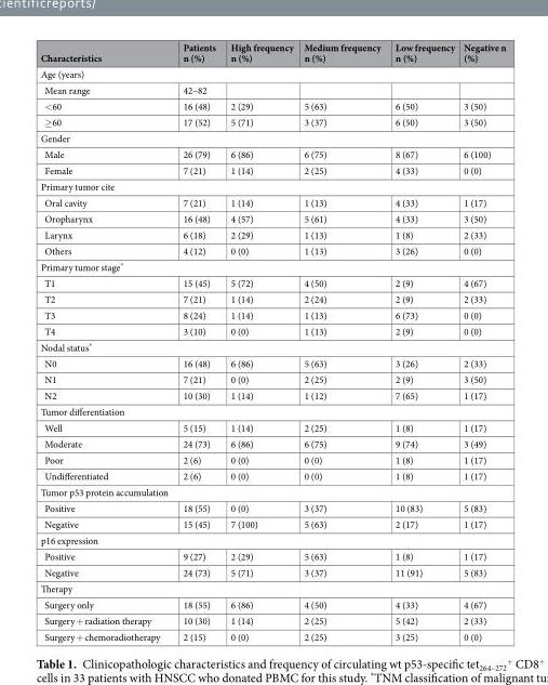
<table><thead><tr><td>Characteristics</td><td>Patients n (%)</td><td>High frequency n (%)</td><td>Medium frequency n (%)</td><td>Low frequency n (%)</td><td>Negative n (%)</td></tr></thead><tbody><tr><td colspan="6">Age (years)</td></tr><tr><td>Mean range</td><td>42–82</td><td></td><td></td><td></td><td></td></tr><tr><td>&lt;60</td><td>16 (48)</td><td>2 (29)</td><td>5 (63)</td><td>6 (50)</td><td>3 (50)</td></tr><tr><td>≥60</td><td>17 (52)</td><td>5 (71)</td><td>3 (37)</td><td>6 (50)</td><td>3 (50)</td></tr><tr><td colspan="6">Gender</td></tr><tr><td>Male</td><td>26 (79)</td><td>6 (86)</td><td>6 (75)</td><td>8 (67)</td><td>6 (100)</td></tr><tr><td>Female</td><td>7 (21)</td><td>1 (14)</td><td>2 (25)</td><td>4 (33)</td><td>0 (0)</td></tr><tr><td colspan="6">Primary tumor cite</td></tr><tr><td>Oral cavity</td><td>7 (21)</td><td>1 (14)</td><td>1 (13)</td><td>4 (33)</td><td>1 (17)</td></tr><tr><td>Oropharynx</td><td>16 (48)</td><td>4 (57)</td><td>5 (61)</td><td>4 (33)</td><td>3 (50)</td></tr><tr><td>Larynx</td><td>6 (18)</td><td>2 (29)</td><td>1 (13)</td><td>1 (8)</td><td>2 (33)</td></tr><tr><td>Others</td><td>4 (12)</td><td>0 (0)</td><td>1 (13)</td><td>3 (26)</td><td>0 (0)</td></tr><tr><td colspan="6">Primary tumor stage*</td></tr><tr><td>T1</td><td>15 (45)</td><td>5 (72)</td><td>4 (50)</td><td>2 (9)</td><td>4 (67)</td></tr><tr><td>T2</td><td>7 (21)</td><td>1 (14)</td><td>2 (24)</td><td>2 (9)</td><td>2 (33)</td></tr><tr><td>T3</td><td>8 (24)</td><td>1 (14)</td><td>1 (13)</td><td>6 (73)</td><td>0 (0)</td></tr><tr><td>T4</td><td>3 (10)</td><td>0 (0)</td><td>1 (13)</td><td>2 (9)</td><td>0 (0)</td></tr><tr><td colspan="6">Nodal status*</td></tr><tr><td>N0</td><td>16 (48)</td><td>6 (86)</td><td>5 (63)</td><td>3 (26)</td><td>2 (33)</td></tr><tr><td>N1</td><td>7 (21)</td><td>0 (0)</td><td>2 (25)</td><td>2 (9)</td><td>3 (50)</td></tr><tr><td>N2</td><td>10 (30)</td><td>1 (14)</td><td>1 (12)</td><td>7 (65)</td><td>1 (17)</td></tr><tr><td colspan="6">Tumor differentiation</td></tr><tr><td>Well</td><td>5 (15)</td><td>1 (14)</td><td>2 (25)</td><td>1 (8)</td><td>1 (17)</td></tr><tr><td>Moderate</td><td>24 (73)</td><td>6 (86)</td><td>6 (75)</td><td>9 (74)</td><td>3 (49)</td></tr><tr><td>Poor</td><td>2 (6)</td><td>0 (0)</td><td>0 (0)</td><td>1 (8)</td><td>1 (17)</td></tr><tr><td>Undifferentiated</td><td>2 (6)</td><td>0 (0)</td><td>0 (0)</td><td>1 (8)</td><td>1 (17)</td></tr><tr><td colspan="6">Tumor p53 protein accumulation</td></tr><tr><td>Positive</td><td>18 (55)</td><td>0 (0)</td><td>3 (37)</td><td>10 (83)</td><td>5 (83)</td></tr><tr><td>Negative</td><td>15 (45)</td><td>7 (100)</td><td>5 (63)</td><td>2 (17)</td><td>1 (17)</td></tr><tr><td colspan="6">p16 expression</td></tr><tr><td>Positive</td><td>9 (27)</td><td>2 (29)</td><td>5 (63)</td><td>1 (8)</td><td>1 (17)</td></tr><tr><td>Negative</td><td>24 (73)</td><td>5 (71)</td><td>3 (37)</td><td>11 (91)</td><td>5 (83)</td></tr><tr><td colspan="6">Therapy</td></tr><tr><td>Surgery only</td><td>18 (55)</td><td>6 (86)</td><td>4 (50)</td><td>4 (33)</td><td>4 (67)</td></tr><tr><td>Surgery + radiation therapy</td><td>10 (30)</td><td>1 (14)</td><td>2 (25)</td><td>5 (42)</td><td>2 (33)</td></tr><tr><td>Surgery + chemoradiotherapy</td><td>2 (15)</td><td>0 (0)</td><td>2 (25)</td><td>3 (25)</td><td>0 (0)</td></tr></tbody></table>